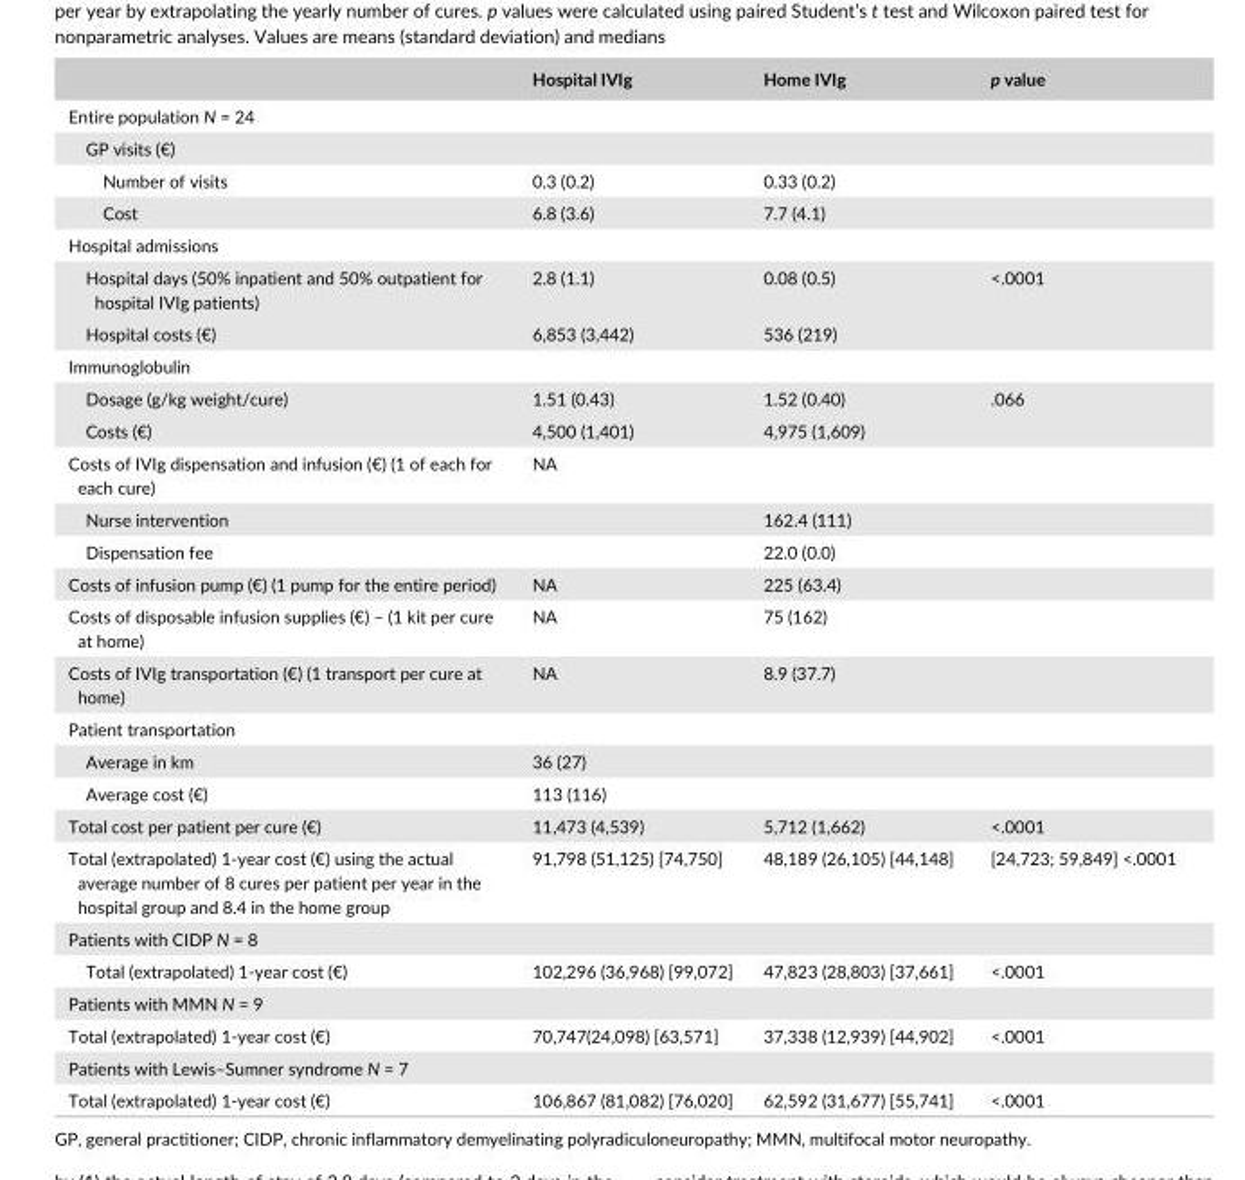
<table><thead><tr><td></td><td>Hospital IVIg</td><td>Home IVIg</td><td>p value</td></tr></thead><tbody><tr><td colspan="4">Entire population N = 24</td></tr><tr><td colspan="4">GP visits (€)</td></tr><tr><td>Number of visits</td><td>0.3 (0.2)</td><td>0.33 (0.2)</td><td></td></tr><tr><td>Cost</td><td>6.8 (3.6)</td><td>7.7 (4.1)</td><td></td></tr><tr><td colspan="4">Hospital admissions</td></tr><tr><td>Hospital days (50% inpatient and 50% outpatient for hospital IVIg patients)</td><td>2.8 (1.1)</td><td>0.08 (0.5)</td><td rowspan="2">&lt;.0001</td></tr><tr><td>Hospital costs (€)</td><td>6,853 (3,442)</td><td>536 (219)</td></tr><tr><td colspan="4">Immunoglobulin</td></tr><tr><td>Dosage (g/kg weight/cure)</td><td>1.51 (0.43)</td><td>1.52 (0.40)</td><td rowspan="2">.066</td></tr><tr><td>Costs (€)</td><td>4,500 (1,401)</td><td>4,975 (1,609)</td></tr><tr><td>Costs of IVIg dispensation and infusion (€) (1 of each for each cure)</td><td>NA</td><td></td><td></td></tr><tr><td>Nurse intervention</td><td></td><td>162.4 (111)</td><td></td></tr><tr><td>Dispensation fee</td><td></td><td>22.0 (0.0)</td><td></td></tr><tr><td>Costs of infusion pump (€) (1 pump for the entire period)</td><td>NA</td><td>225 (63.4)</td><td></td></tr><tr><td>Costs of disposable infusion supplies (€) – (1 kit per cure at home)</td><td>NA</td><td>75 (162)</td><td></td></tr><tr><td>Costs of IVIg transportation (€) (1 transport per cure at home)</td><td>NA</td><td>8.9 (37.7)</td><td></td></tr><tr><td colspan="4">Patient transportation</td></tr><tr><td>Average in km</td><td>36 (27)</td><td></td><td></td></tr><tr><td>Average cost (€)</td><td>113 (116)</td><td></td><td></td></tr><tr><td>Total cost per patient per cure (€)</td><td>11,473 (4,539)</td><td>5,712 (1,662)</td><td>&lt;.0001</td></tr><tr><td>Total (extrapolated) 1- year cost (€) using the actual average number of 8 cures per patient per year in the hospital group and 8.4 in the home group</td><td>91,798 (51,125) [74,750]</td><td>48,189 (26,105) [44,148]</td><td>[24,723; 59,849] &lt;.0001</td></tr><tr><td colspan="4">Patients with CIDP N = 8</td></tr><tr><td>Total (extrapolated) 1- year cost (€)</td><td>102,296 (36,968) [99,072]</td><td>47,823 (28,803) [37,661]</td><td>&lt;.0001</td></tr><tr><td colspan="4">Patients with MMN N = 9</td></tr><tr><td>Total (extrapolated) 1- year cost (€)</td><td>70,747(24,098) [63,571]</td><td>37,338 (12,939) [44,902]</td><td>&lt;.0001</td></tr><tr><td colspan="4">Patients with Lewis–Sumner syndrome N = 7</td></tr><tr><td>Total (extrapolated) 1- year cost (€)</td><td>106,867 (81,082) [76,020]</td><td>62,592 (31,677) [55,741]</td><td>&lt;.0001</td></tr></tbody></table>